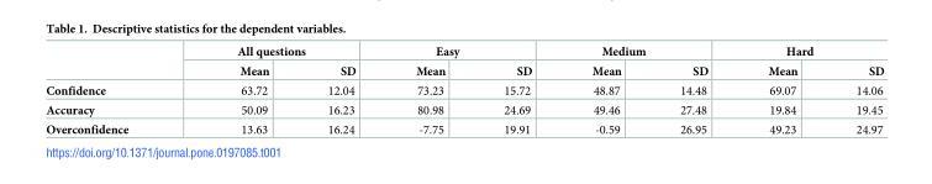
<table><thead><tr><td rowspan="2"></td><td colspan="2">All questions</td><td colspan="2">Easy</td><td colspan="2">Medium</td><td colspan="2">Hard</td></tr><tr><td>Mean</td><td>SD</td><td>Mean</td><td>SD</td><td>Mean</td><td>SD</td><td>Mean</td><td>SD</td></tr></thead><tbody><tr><td>Confidence</td><td>63.72</td><td>12.04</td><td>73.23</td><td>15.72</td><td>48.87</td><td>14.48</td><td>69.07</td><td>14.06</td></tr><tr><td>Accuracy</td><td>50.09</td><td>16.23</td><td>80.98</td><td>24.69</td><td>49.46</td><td>27.48</td><td>19.84</td><td>19.45</td></tr><tr><td>Overconfidence</td><td>13.63</td><td>16.24</td><td>-7.75</td><td>19.91</td><td>-0.59</td><td>26.95</td><td>49.23</td><td>24.97</td></tr></tbody></table>